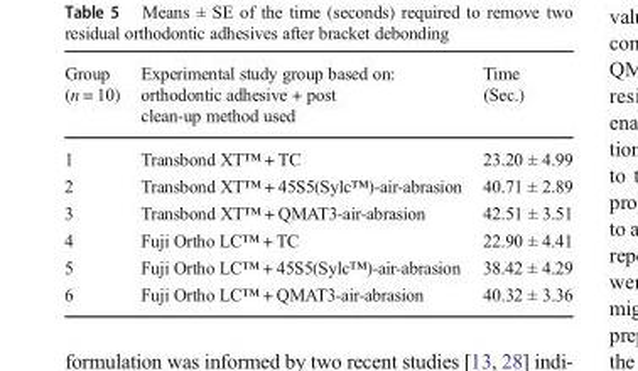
<table><thead><tr><td>Group (n = 10)</td><td>Experimental study group based on: orthodontic adhesive + post clean-up method used</td><td>Time (Sec.)</td></tr></thead><tbody><tr><td>1</td><td>Transbond XT™ + TC</td><td>23.20 ± 4.99</td></tr><tr><td>2</td><td>Transbond XT™ + 45S5(Sylc™)-air-abrasion</td><td>40.71 ± 2.89</td></tr><tr><td>3</td><td>Transbond XT™ + QMAT3-air-abrasion</td><td>42.51 ± 3.51</td></tr><tr><td>4</td><td>Fuji Ortho LC™ + TC</td><td>22.90 ± 4.41</td></tr><tr><td>5</td><td>Fuji Ortho LC™ + 45S5(Sylc™)-air-abrasion</td><td>38.42 ± 4.29</td></tr><tr><td>6</td><td>Fuji Ortho LC™ + QMAT3-air-abrasion</td><td>40.32 ± 3.36</td></tr></tbody></table>